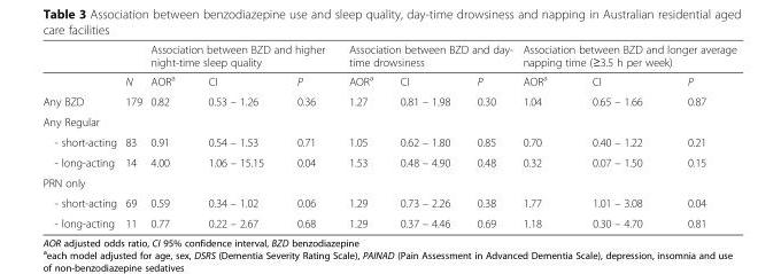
<table><thead><tr><td rowspan="2"></td><td rowspan="2">N</td><td colspan="3">Association between BZD and higher night-time sleep quality</td><td colspan="3">Association between BZD and day- time drowsiness</td><td colspan="3">Association between BZD and longer average napping time (≥3.5 h per week)</td></tr><tr><td>AOR<sup>a</sup></td><td>CI</td><td>P</td><td>AOR<sup>a</sup></td><td>CI</td><td>P</td><td>AOR<sup>a</sup></td><td>CI</td><td>P</td></tr></thead><tbody><tr><td>Any BZD</td><td>179</td><td>0.82</td><td>0.53 – 1.26</td><td>0.36</td><td>1.27</td><td>0.81 – 1.98</td><td>0.30</td><td>1.04</td><td>0.65 – 1.66</td><td>0.87</td></tr><tr><td colspan="11">Any Regular</td></tr><tr><td>- short-acting</td><td>83</td><td>0.91</td><td>0.54 – 1.53</td><td>0.71</td><td>1.05</td><td>0.62 – 1.80</td><td>0.85</td><td>0.70</td><td>0.40 – 1.22</td><td>0.21</td></tr><tr><td>- long-acting</td><td>14</td><td>4.00</td><td>1.06 – 15.15</td><td>0.04</td><td>1.53</td><td>0.48 – 4.90</td><td>0.48</td><td>0.32</td><td>0.07 – 1.50</td><td>0.15</td></tr><tr><td colspan="11">PRN only</td></tr><tr><td>- short-acting</td><td>69</td><td>0.59</td><td>0.34 – 1.02</td><td>0.06</td><td>1.29</td><td>0.73 – 2.26</td><td>0.38</td><td>1.77</td><td>1.01 – 3.08</td><td>0.04</td></tr><tr><td>- long-acting</td><td>11</td><td>0.77</td><td>0.22 – 2.67</td><td>0.68</td><td>1.29</td><td>0.37 – 4.46</td><td>0.69</td><td>1.18</td><td>0.30 – 4.70</td><td>0.81</td></tr></tbody></table>